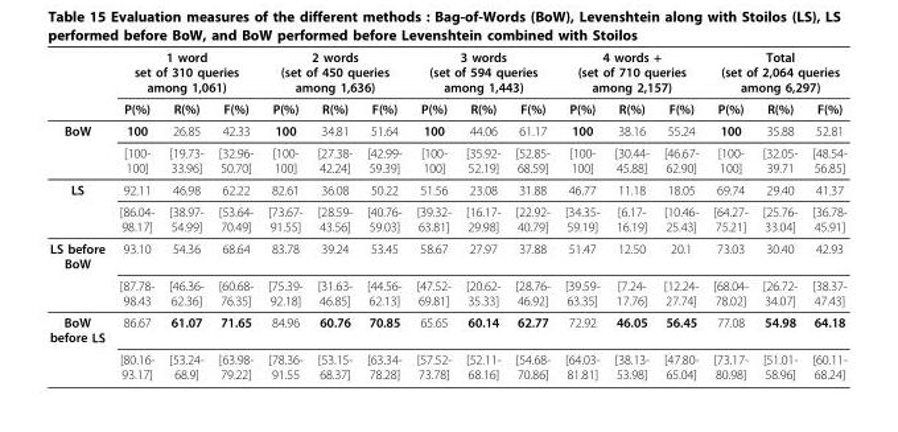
<table><thead><tr><td rowspan="2"></td><td colspan="3">1 word set of 310 queries among 1,061)</td><td colspan="3">2 words (set of 450 queries among 1,636)</td><td colspan="3">3 words (set of 594 queries among 1,443)</td><td colspan="3">4 words + (set of 710 queries among 2,157)</td><td colspan="3">Total (set of 2,064 queries among 6,297)</td></tr><tr><td>P(%)</td><td>R(%)</td><td>F(%)</td><td>P(%)</td><td>R(%)</td><td>F(%)</td><td>P(%)</td><td>R(%)</td><td>F(%)</td><td>P(%)</td><td>R(%)</td><td>F(%)</td><td>P(%)</td><td>R(%)</td><td>F(%)</td></tr></thead><tbody><tr><td rowspan="2">BoW</td><td>100</td><td>26.85</td><td>42.33</td><td>100</td><td>34.81</td><td>51.64</td><td>100</td><td>44.06</td><td>61.17</td><td>100</td><td>38.16</td><td>55.24</td><td>100</td><td>35.88</td><td>52.81</td></tr><tr><td>[100- 100]</td><td>[19.73- 33.96]</td><td>[32.96- 50.70]</td><td>[100- 100]</td><td>[27.38- 42.24]</td><td>[42.99- 59.39]</td><td>[100- 100]</td><td>[35.92- 52.19]</td><td>[52.85- 68.59]</td><td>[100- 100]</td><td>[30.44- 45.88]</td><td>[46.67- 62.90]</td><td>[100- 100]</td><td>[32.05- 39.71</td><td>[48.54- 56.85]</td></tr><tr><td rowspan="2">LS</td><td>92.11</td><td>46.98</td><td>62.22</td><td>82.61</td><td>36.08</td><td>50.22</td><td>51.56</td><td>23.08</td><td>31.88</td><td>46.77</td><td>11.18</td><td>18.05</td><td>69.74</td><td>29.40</td><td>41.37</td></tr><tr><td>[86.04- 98.17]</td><td>[38.97- 54.99]</td><td>[53.64- 70.49]</td><td>[73.67- 91.55]</td><td>[28.59- 43.56]</td><td>[40.76- 59.03]</td><td>[39.32- 63.81]</td><td>[16.17- 29.98]</td><td>[22.92- 40.79]</td><td>[34.35- 59.19]</td><td>[6.17- 16.19]</td><td>[10.46- 25.43]</td><td>[64.27- 75.21]</td><td>[25.76- 33.04]</td><td>[36.78- 45.91]</td></tr><tr><td rowspan="2">LS before BoW</td><td>93.10</td><td>54.36</td><td>68.64</td><td>83.78</td><td>39.24</td><td>53.45</td><td>58.67</td><td>27.97</td><td>37.88</td><td>51.47</td><td>12.50</td><td>20.1</td><td>73.03</td><td>30.40</td><td>42.93</td></tr><tr><td>[87.78- 98.43</td><td>[46.36- 62.36]</td><td>[60.68- 76.35]</td><td>[75.39- 92.18]</td><td>[31.63- 46.85]</td><td>[44.56- 62.13]</td><td>[47.52- 69.81]</td><td>[20.62- 35.33]</td><td>[28.76- 46.92]</td><td>[39.59- 63.35]</td><td>[7.24- 17.76]</td><td>[12.24- 27.74]</td><td>[68.04- 78.02]</td><td>[26.72- 34.07]</td><td>[38.37- 47.43]</td></tr><tr><td rowspan="2">BoW before LS</td><td>86.67</td><td>61.07</td><td>71.65</td><td>84.96</td><td>60.76</td><td>70.85</td><td>65.65</td><td>60.14</td><td>62.77</td><td>72.92</td><td>46.05</td><td>56.45</td><td>77.08</td><td>54.98</td><td>64.18</td></tr><tr><td>[80.16- 93.17]</td><td>[53.24- 68.9]</td><td>[63.98- 79.22]</td><td>[78.36- 91.55</td><td>[53.15- 68.37]</td><td>[63.34- 78.28]</td><td>[57.52- 73.78]</td><td>[52.11- 68.16]</td><td>[54.68- 70.86]</td><td>[64.03- 81.81]</td><td>[38.13- 53.98]</td><td>[47.80- 65.04]</td><td>[73.17- 80.98]</td><td>[51.01- 58.96]</td><td>[60.11- 68.24]</td></tr></tbody></table>